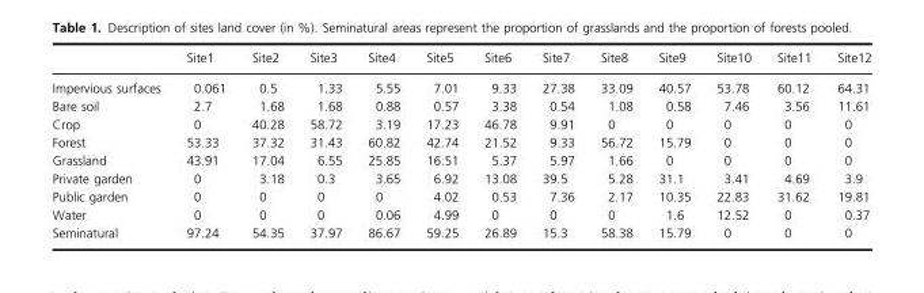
<table><thead><tr><td></td><td>Site1</td><td>Site2</td><td>Site3</td><td>Site4</td><td>Site5</td><td>Site6</td><td>Site7</td><td>Site8</td><td>Site9</td><td>Site10</td><td>Site11</td><td>Site12</td></tr></thead><tbody><tr><td>Impervious surfaces</td><td>0.061</td><td>0.5</td><td>1.33</td><td>5.55</td><td>7.01</td><td>9.33</td><td>27.38</td><td>33.09</td><td>40.57</td><td>53.78</td><td>60.12</td><td>64.31</td></tr><tr><td>Bare soil</td><td>2.7</td><td>1.68</td><td>1.68</td><td>0.88</td><td>0.57</td><td>3.38</td><td>0.54</td><td>1.08</td><td>0.58</td><td>7.46</td><td>3.56</td><td>11.61</td></tr><tr><td>Crop</td><td>0</td><td>40.28</td><td>58.72</td><td>3.19</td><td>17.23</td><td>46.78</td><td>9.91</td><td>0</td><td>0</td><td>0</td><td>0</td><td>0</td></tr><tr><td>Forest</td><td>53.33</td><td>37.32</td><td>31.43</td><td>60.82</td><td>42.74</td><td>21.52</td><td>9.33</td><td>56.72</td><td>15.79</td><td>0</td><td>0</td><td>0</td></tr><tr><td>Grassland</td><td>43.91</td><td>17.04</td><td>6.55</td><td>25.85</td><td>16.51</td><td>5.37</td><td>5.97</td><td>1.66</td><td>0</td><td>0</td><td>0</td><td>0</td></tr><tr><td>Private garden</td><td>0</td><td>3.18</td><td>0.3</td><td>3.65</td><td>6.92</td><td>13.08</td><td>39.5</td><td>5.28</td><td>31.1</td><td>3.41</td><td>4.69</td><td>3.9</td></tr><tr><td>Public garden</td><td>0</td><td>0</td><td>0</td><td>0</td><td>4.02</td><td>0.53</td><td>7.36</td><td>2.17</td><td>10.35</td><td>22.83</td><td>31.62</td><td>19.81</td></tr><tr><td>Water</td><td>0</td><td>0</td><td>0</td><td>0.06</td><td>4.99</td><td>0</td><td>0</td><td>0</td><td>1.6</td><td>12.52</td><td>0</td><td>0.37</td></tr><tr><td>Seminatural</td><td>97.24</td><td>54.35</td><td>37.97</td><td>86.67</td><td>59.25</td><td>26.89</td><td>15.3</td><td>58.38</td><td>15.79</td><td>0</td><td>0</td><td>0</td></tr></tbody></table>